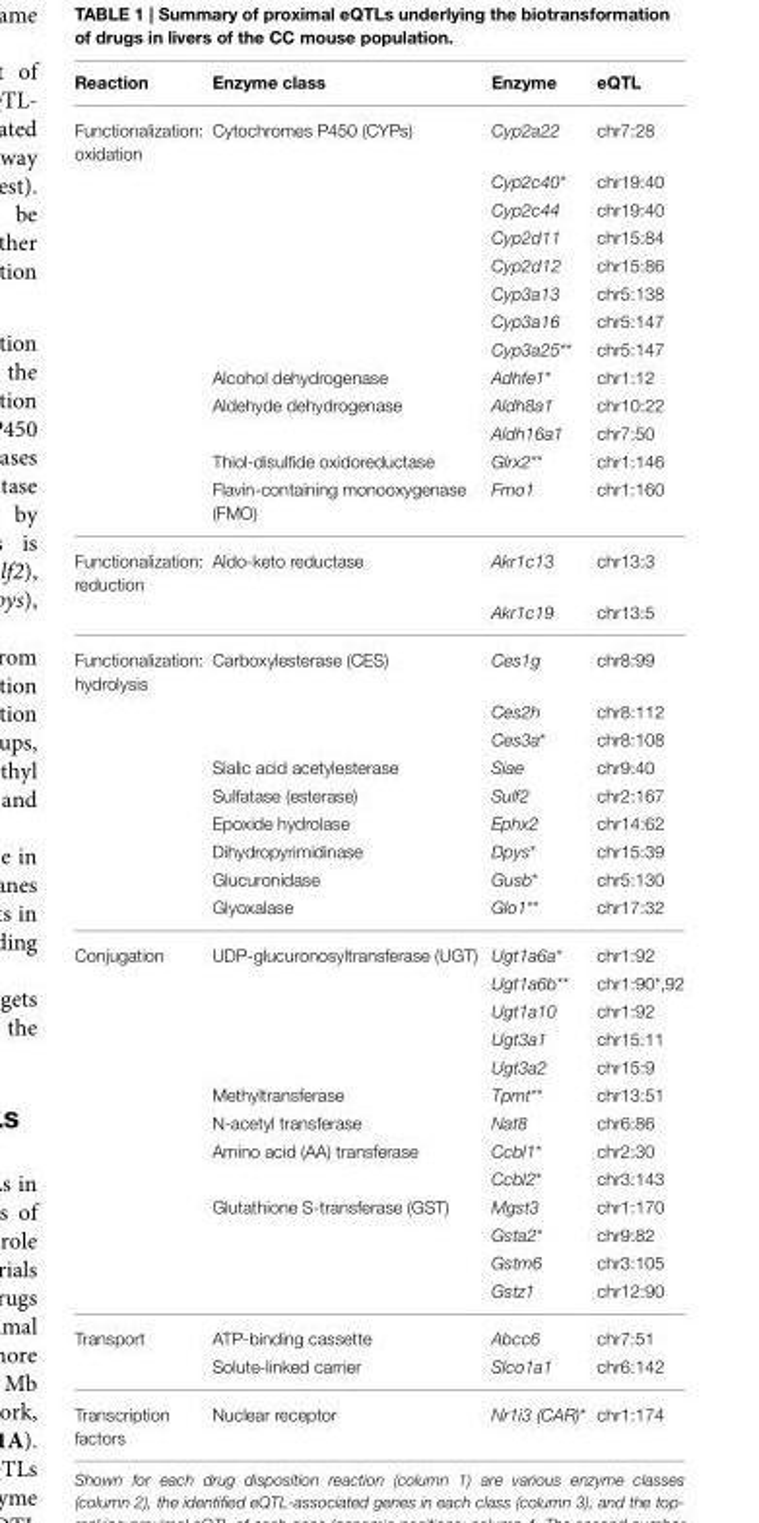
<table><thead><tr><td>Reaction</td><td>Enzyme class</td><td>Enzyme</td><td>eQTL</td></tr></thead><tbody><tr><td rowspan="13">Functionalization: oxidation</td><td>Cytochromes P450 (CYPs)</td><td>Cyp2a22</td><td>chr7:28</td></tr><tr><td></td><td>Cyp2c40*</td><td>chr19:40</td></tr><tr><td></td><td>Cyp2c44</td><td>chr19:40</td></tr><tr><td></td><td>Cyp2d11</td><td>chr15:84</td></tr><tr><td></td><td>Cyp2d12</td><td>chr15:86</td></tr><tr><td></td><td>Cyp3a13</td><td>chr5:138</td></tr><tr><td></td><td>Cyp3a16</td><td>chr5:147</td></tr><tr><td></td><td>Cyp3a25**</td><td>chr5:147</td></tr><tr><td>Alcohol dehydrogenase</td><td>Adhfe1*</td><td>chr1:12</td></tr><tr><td>Aldehyde dehydrogenase</td><td>Aldh8a1</td><td>chr10:22</td></tr><tr><td></td><td>Aldh16a1</td><td>chr7:50</td></tr><tr><td>Thiol-disulfide oxidoreductase</td><td>Glrx2**</td><td>chr1:146</td></tr><tr><td>Flavin-containing monooxygenase (FMO)</td><td>Fmo1</td><td>chr1:160</td></tr><tr><td rowspan="2">Functionalization: reduction</td><td>Aldo-keto reductase</td><td>Akr1c13</td><td>chr13:3</td></tr><tr><td></td><td>Akr1c19</td><td>chr13:5</td></tr><tr><td rowspan="9">Functionalization: hydrolysis</td><td>Carboxylesterase (CES)</td><td>Ces1g</td><td>chr8:99</td></tr><tr><td></td><td>Ces2h</td><td>chr8:112</td></tr><tr><td></td><td>Ces3a*</td><td>chr8:108</td></tr><tr><td>Sialic acid acetylesterase</td><td>Siae</td><td>chr9:40</td></tr><tr><td>Sulfatase (esterase)</td><td>Sulf2</td><td>chr2:167</td></tr><tr><td>Epoxide hydrolase</td><td>Ephx2</td><td>chr14:62</td></tr><tr><td>Dihydropyrimidinase</td><td>Dpys*</td><td>chr15:39</td></tr><tr><td>Glucuronidase</td><td>Gusb*</td><td>chr5:130</td></tr><tr><td>Glyoxalase</td><td>Glo1**</td><td>chr17:32</td></tr><tr><td rowspan="13">Conjugation</td><td>UDP-glucuronosyltransferase (UGT)</td><td>Ugt1a6a*</td><td>chr1:92</td></tr><tr><td></td><td>Ugt1a6b**</td><td>chr1:90*,92</td></tr><tr><td></td><td>Ugt1a10</td><td>chr1:92</td></tr><tr><td></td><td>Ugt3a1</td><td>chr15:11</td></tr><tr><td></td><td>Ugt3a2</td><td>chr15:9</td></tr><tr><td>Methyltransferase</td><td>Tpmt**</td><td>chr13:51</td></tr><tr><td>N-acetyl transferase</td><td>Nat8</td><td>chr6:86</td></tr><tr><td>Amino acid (AA) transferase</td><td>Ccbl1*</td><td>chr2:30</td></tr><tr><td></td><td>Ccbl2*</td><td>chr3:143</td></tr><tr><td>Glutathione S-transferase (GST)</td><td>Mgst3</td><td>chr1:170</td></tr><tr><td></td><td>Gsta2*</td><td>chr9:82</td></tr><tr><td></td><td>Gstm6</td><td>chr3:105</td></tr><tr><td></td><td>Gstz1</td><td>chr12:90</td></tr><tr><td rowspan="2">Transport</td><td>ATP-binding cassette</td><td>Abcc6</td><td>chr7:51</td></tr><tr><td>Solute-linked carrier</td><td>Slco1a1</td><td>chr6:142</td></tr><tr><td>Transcription factors</td><td>Nuclear receptor</td><td>Nr1i3 (CAR)*</td><td>chr1:174</td></tr></tbody></table>